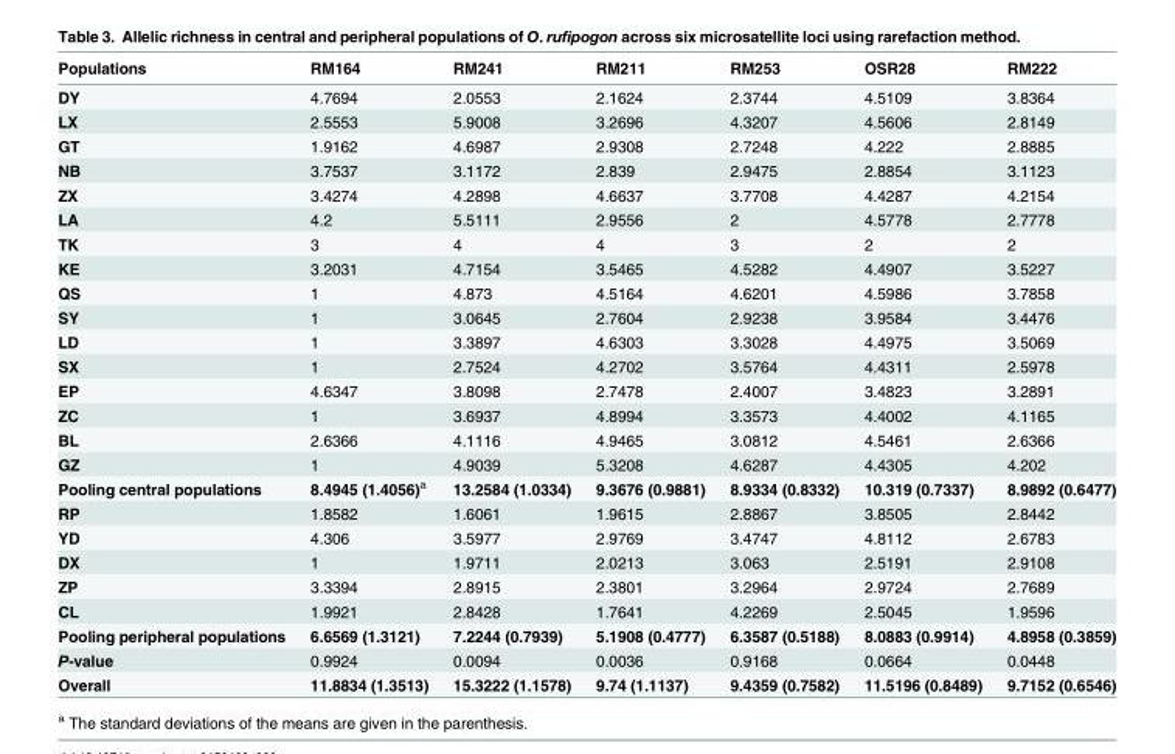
<table><thead><tr><td>Populations</td><td>RM164</td><td>RM241</td><td>RM211</td><td>RM253</td><td>OSR28</td><td>RM222</td></tr></thead><tbody><tr><td>DY</td><td>4.7694</td><td>2.0553</td><td>2.1624</td><td>2.3744</td><td>4.5109</td><td>3.8364</td></tr><tr><td>LX</td><td>2.5553</td><td>5.9008</td><td>3.2696</td><td>4.3207</td><td>4.5606</td><td>2.8149</td></tr><tr><td>GT</td><td>1.9162</td><td>4.6987</td><td>2.9308</td><td>2.7248</td><td>4.222</td><td>2.8885</td></tr><tr><td>NB</td><td>3.7537</td><td>3.1172</td><td>2.839</td><td>2.9475</td><td>2.8854</td><td>3.1123</td></tr><tr><td>ZX</td><td>3.4274</td><td>4.2898</td><td>4.6637</td><td>3.7708</td><td>4.4287</td><td>4.2154</td></tr><tr><td>LA</td><td>4.2</td><td>5.5111</td><td>2.9556</td><td>2</td><td>4.5778</td><td>2.7778</td></tr><tr><td>TK</td><td>3</td><td>4</td><td>4</td><td>3</td><td>2</td><td>2</td></tr><tr><td>KE</td><td>3.2031</td><td>4.7154</td><td>3.5465</td><td>4.5282</td><td>4.4907</td><td>3.5227</td></tr><tr><td>QS</td><td>1</td><td>4.873</td><td>4.5164</td><td>4.6201</td><td>4.5986</td><td>3.7858</td></tr><tr><td>SY</td><td>1</td><td>3.0645</td><td>2.7604</td><td>2.9238</td><td>3.9584</td><td>3.4476</td></tr><tr><td>LD</td><td>1</td><td>3.3897</td><td>4.6303</td><td>3.3028</td><td>4.4975</td><td>3.5069</td></tr><tr><td>SX</td><td>1</td><td>2.7524</td><td>4.2702</td><td>3.5764</td><td>4.4311</td><td>2.5978</td></tr><tr><td>EP</td><td>4.6347</td><td>3.8098</td><td>2.7478</td><td>2.4007</td><td>3.4823</td><td>3.2891</td></tr><tr><td>ZC</td><td>1</td><td>3.6937</td><td>4.8994</td><td>3.3573</td><td>4.4002</td><td>4.1165</td></tr><tr><td>BL</td><td>2.6366</td><td>4.1116</td><td>4.9465</td><td>3.0812</td><td>4.5461</td><td>2.6366</td></tr><tr><td>GZ</td><td>1</td><td>4.9039</td><td>5.3208</td><td>4.6287</td><td>4.4305</td><td>4.202</td></tr><tr><td>Pooling central populations</td><td>8.4945 (1.4056)<sup>a</sup></td><td>13.2584 (1.0334)</td><td>9.3676 (0.9881)</td><td>8.9334 (0.8332)</td><td>10.319 (0.7337)</td><td>8.9892 (0.6477)</td></tr><tr><td>RP</td><td>1.8582</td><td>1.6061</td><td>1.9615</td><td>2.8867</td><td>3.8505</td><td>2.8442</td></tr><tr><td>YD</td><td>4.306</td><td>3.5977</td><td>2.9769</td><td>3.4747</td><td>4.8112</td><td>2.6783</td></tr><tr><td>DX</td><td>1</td><td>1.9711</td><td>2.0213</td><td>3.063</td><td>2.5191</td><td>2.9108</td></tr><tr><td>ZP</td><td>3.3394</td><td>2.8915</td><td>2.3801</td><td>3.2964</td><td>2.9724</td><td>2.7689</td></tr><tr><td>CL</td><td>1.9921</td><td>2.8428</td><td>1.7641</td><td>4.2269</td><td>2.5045</td><td>1.9596</td></tr><tr><td>Pooling peripheral populations</td><td>6.6569 (1.3121)</td><td>7.2244 (0.7939)</td><td>5.1908 (0.4777)</td><td>6.3587 (0.5188)</td><td>8.0883 (0.9914)</td><td>4.8958 (0.3859)</td></tr><tr><td>P-value</td><td>0.9924</td><td>0.0094</td><td>0.0036</td><td>0.9168</td><td>0.0664</td><td>0.0448</td></tr><tr><td>Overall</td><td>11.8834 (1.3513)</td><td>15.3222 (1.1578)</td><td>9.74 (1.1137)</td><td>9.4359 (0.7582)</td><td>11.5196 (0.8489)</td><td>9.7152 (0.6546)</td></tr></tbody></table>